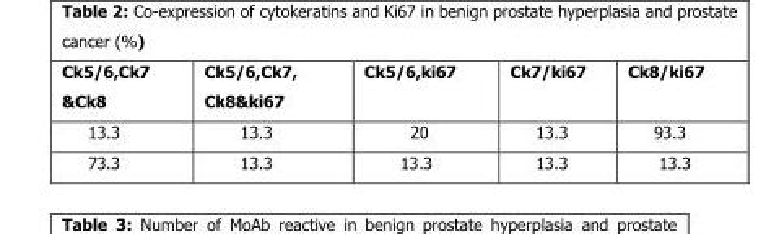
<table><thead><tr><td>Ck5/6,Ck7 &amp;Ck8</td><td>Ck5/6,Ck7, Ck8&amp;ki67</td><td>Ck5/6,ki67</td><td>Ck7/ki67</td><td>Ck8/ki67</td></tr></thead><tbody><tr><td>13.3</td><td>13.3</td><td>20</td><td>13.3</td><td>93.3</td></tr><tr><td>73.3</td><td>13.3</td><td>13.3</td><td>13.3</td><td>13.3</td></tr></tbody></table>